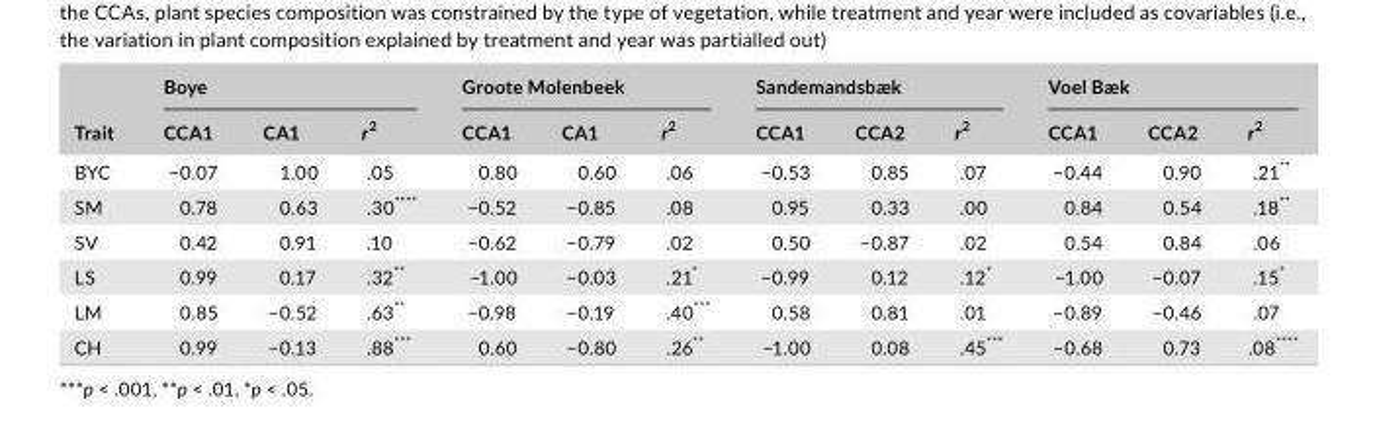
<table><thead><tr><td rowspan="2">Trait</td><td colspan="3">Boye</td><td colspan="3">Groote Molenbeek</td><td colspan="3">Sandemandsbæk</td><td colspan="3">Voel Bæk</td></tr><tr><td>CCA1</td><td>CA1</td><td>r<sup>2</sup></td><td>CCA1</td><td>CA1</td><td>r<sup>2</sup></td><td>CCA1</td><td>CCA2</td><td>r<sup>2</sup></td><td>CCA1</td><td>CCA2</td><td>r<sup>2</sup></td></tr></thead><tbody><tr><td>BYC</td><td>−0.07</td><td>1.00</td><td>.05</td><td>0.80</td><td>0.60</td><td>.06</td><td>−0.53</td><td>0.85</td><td>.07</td><td>−0.44</td><td>0.90</td><td>.21**</td></tr><tr><td>SM</td><td>0.78</td><td>0.63</td><td>.30****</td><td>−0.52</td><td>−0.85</td><td>.08</td><td>0.95</td><td>0.33</td><td>.00</td><td>0.84</td><td>0.54</td><td>.18**</td></tr><tr><td>SV</td><td>0.42</td><td>0.91</td><td>.10</td><td>−0.62</td><td>−0.79</td><td>.02</td><td>0.50</td><td>−0.87</td><td>.02</td><td>0.54</td><td>0.84</td><td>.06</td></tr><tr><td>LS</td><td>0.99</td><td>0.17</td><td>.32**</td><td>−1.00</td><td>−0.03</td><td>.21*</td><td>−0.99</td><td>0.12</td><td>.12*</td><td>−1.00</td><td>−0.07</td><td>.15*</td></tr><tr><td>LM</td><td>0.85</td><td>−0.52</td><td>.63**</td><td>−0.98</td><td>−0.19</td><td>.40***</td><td>0.58</td><td>0.81</td><td>.01</td><td>−0.89</td><td>−0.46</td><td>.07</td></tr><tr><td>CH</td><td>0.99</td><td>−0.13</td><td>.88***</td><td>0.60</td><td>−0.80</td><td>.26**</td><td>−1.00</td><td>0.08</td><td>.45***</td><td>−0.68</td><td>0.73</td><td>.08****</td></tr></tbody></table>